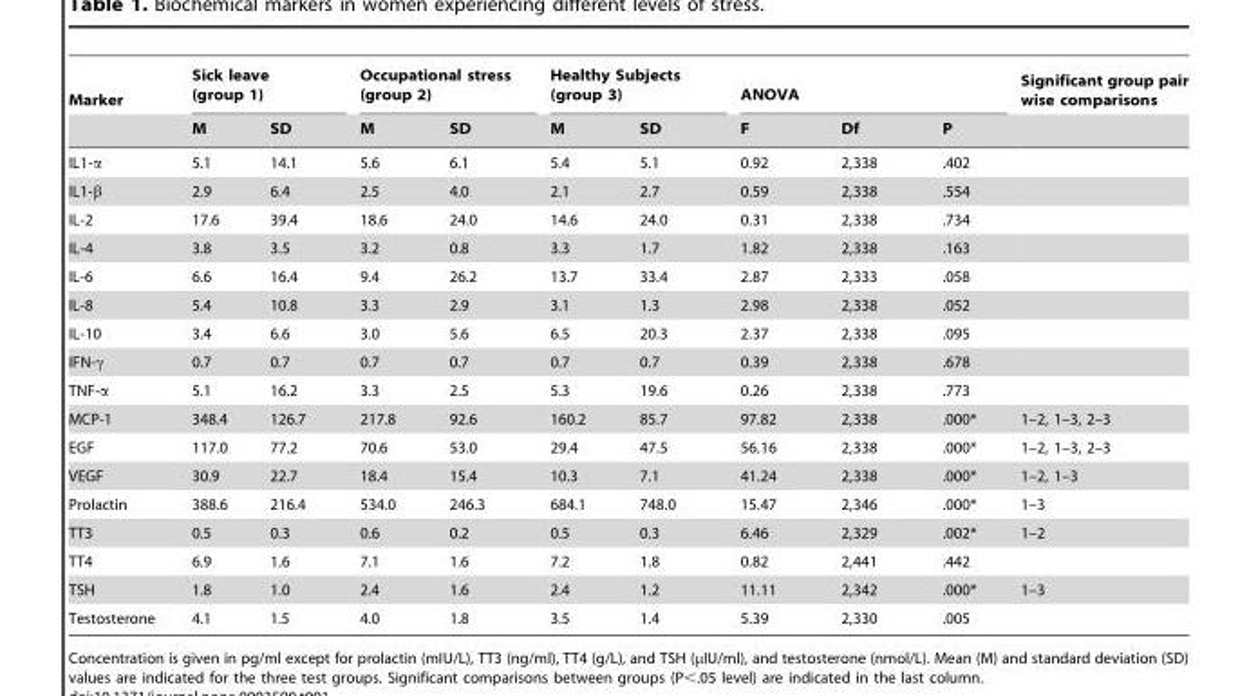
<table><thead><tr><td rowspan="2">Marker</td><td colspan="2">Sick leave (group 1)</td><td colspan="2">Occupational stress (group 2)</td><td colspan="2">Healthy Subjects (group 3)</td><td colspan="3">ANOVA</td><td rowspan="2">Significant group pair wise comparisons</td></tr><tr><td>M</td><td>SD</td><td>M</td><td>SD</td><td>M</td><td>SD</td><td>F</td><td>Df</td><td>P</td></tr></thead><tbody><tr><td>IL1-α</td><td>5.1</td><td>14.1</td><td>5.6</td><td>6.1</td><td>5.4</td><td>5.1</td><td>0.92</td><td>2,338</td><td>.402</td><td></td></tr><tr><td>IL1-β</td><td>2.9</td><td>6.4</td><td>2.5</td><td>4.0</td><td>2.1</td><td>2.7</td><td>0.59</td><td>2,338</td><td>.554</td><td></td></tr><tr><td>IL-2</td><td>17.6</td><td>39.4</td><td>18.6</td><td>24.0</td><td>14.6</td><td>24.0</td><td>0.31</td><td>2,338</td><td>.734</td><td></td></tr><tr><td>IL-4</td><td>3.8</td><td>3.5</td><td>3.2</td><td>0.8</td><td>3.3</td><td>1.7</td><td>1.82</td><td>2,338</td><td>.163</td><td></td></tr><tr><td>IL-6</td><td>6.6</td><td>16.4</td><td>9.4</td><td>26.2</td><td>13.7</td><td>33.4</td><td>2.87</td><td>2,333</td><td>.058</td><td></td></tr><tr><td>IL-8</td><td>5.4</td><td>10.8</td><td>3.3</td><td>2.9</td><td>3.1</td><td>1.3</td><td>2.98</td><td>2,338</td><td>.052</td><td></td></tr><tr><td>IL-10</td><td>3.4</td><td>6.6</td><td>3.0</td><td>5.6</td><td>6.5</td><td>20.3</td><td>2.37</td><td>2,338</td><td>.095</td><td></td></tr><tr><td>IFN-γ</td><td>0.7</td><td>0.7</td><td>0.7</td><td>0.7</td><td>0.7</td><td>0.7</td><td>0.39</td><td>2,338</td><td>.678</td><td></td></tr><tr><td>TNF-α</td><td>5.1</td><td>16.2</td><td>3.3</td><td>2.5</td><td>5.3</td><td>19.6</td><td>0.26</td><td>2,338</td><td>.773</td><td></td></tr><tr><td>MCP-1</td><td>348.4</td><td>126.7</td><td>217.8</td><td>92.6</td><td>160.2</td><td>85.7</td><td>97.82</td><td>2,338</td><td>.000*</td><td>1–2, 1–3, 2–3</td></tr><tr><td>EGF</td><td>117.0</td><td>77.2</td><td>70.6</td><td>53.0</td><td>29.4</td><td>47.5</td><td>56.16</td><td>2,338</td><td>.000*</td><td>1–2, 1–3, 2–3</td></tr><tr><td>VEGF</td><td>30.9</td><td>22.7</td><td>18.4</td><td>15.4</td><td>10.3</td><td>7.1</td><td>41.24</td><td>2,338</td><td>.000*</td><td>1–2, 1–3</td></tr><tr><td>Prolactin</td><td>388.6</td><td>216.4</td><td>534.0</td><td>246.3</td><td>684.1</td><td>748.0</td><td>15.47</td><td>2,346</td><td>.000*</td><td>1–3</td></tr><tr><td>TT3</td><td>0.5</td><td>0.3</td><td>0.6</td><td>0.2</td><td>0.5</td><td>0.3</td><td>6.46</td><td>2,329</td><td>.002*</td><td>1–2</td></tr><tr><td>TT4</td><td>6.9</td><td>1.6</td><td>7.1</td><td>1.6</td><td>7.2</td><td>1.8</td><td>0.82</td><td>2,441</td><td>.442</td><td></td></tr><tr><td>TSH</td><td>1.8</td><td>1.0</td><td>2.4</td><td>1.6</td><td>2.4</td><td>1.2</td><td>11.11</td><td>2,342</td><td>.000*</td><td>1–3</td></tr><tr><td>Testosterone</td><td>4.1</td><td>1.5</td><td>4.0</td><td>1.8</td><td>3.5</td><td>1.4</td><td>5.39</td><td>2,330</td><td>.005</td><td></td></tr></tbody></table>